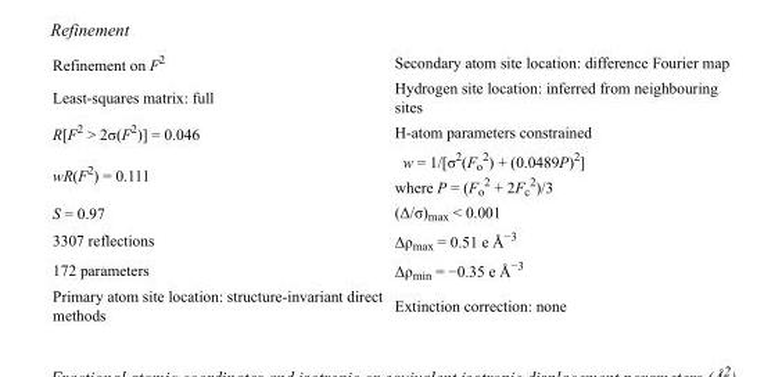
<table><tbody><tr><td>Refinement on F<sup>2</sup></td><td>Secondary atom site location: difference Fourier map</td></tr><tr><td>Least-squares matrix: full</td><td>Hydrogen site location: inferred from neighbouring sites</td></tr><tr><td>R[F<sup>2</sup> &gt; 2σ(F<sup>2</sup>)] = 0.046</td><td>H-atom parameters constrained</td></tr><tr><td>wR(F<sup>2</sup>) = 0.111</td><td>w = 1/[σ<sup>2</sup>(F<sub>o</sub> <sup>2</sup>) + (0.0489P)<sup>2</sup>] where P = (F<sub>o</sub> <sup>2</sup> + 2F<sub>c</sub> <sup>2</sup>)/3</td></tr><tr><td>S = 0.97</td><td>(Δ/σ)<sub>max</sub> &lt; 0.001</td></tr><tr><td>3307 reflections</td><td>Δρ<sub>max</sub> = 0.51 e Å<sup>−3</sup></td></tr><tr><td>172 parameters</td><td>Δρ<sub>min</sub> = −0.35 e Å<sup>−3</sup></td></tr><tr><td>Primary atom site location: structure-invariant direct methods</td><td>Extinction correction: none</td></tr></tbody></table>